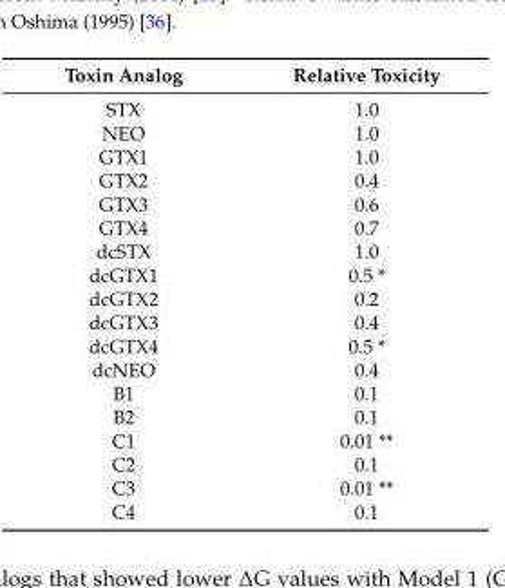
<table><thead><tr><td>Toxin Analog</td><td>Relative Toxicity</td></tr></thead><tbody><tr><td>STX</td><td>1.0</td></tr><tr><td>NEO</td><td>1.0</td></tr><tr><td>GTX1</td><td>1.0</td></tr><tr><td>GTX2</td><td>0.4</td></tr><tr><td>GTX3</td><td>0.6</td></tr><tr><td>GTX4</td><td>0.7</td></tr><tr><td>dcSTX</td><td>1.0</td></tr><tr><td>dcGTX1</td><td>0.5 *</td></tr><tr><td>dcGTX2</td><td>0.2</td></tr><tr><td>dcGTX3</td><td>0.4</td></tr><tr><td>dcGTX4</td><td>0.5 *</td></tr><tr><td>dcNEO</td><td>0.4</td></tr><tr><td>B1</td><td>0.1</td></tr><tr><td>B2</td><td>0.1</td></tr><tr><td>C1</td><td>0.01 **</td></tr><tr><td>C2</td><td>0.1</td></tr><tr><td>C3</td><td>0.01 **</td></tr><tr><td>C4</td><td>0.1</td></tr></tbody></table>